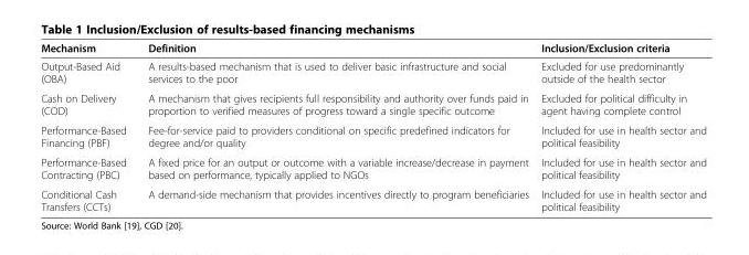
<table><thead><tr><td>Mechanism</td><td>Definition</td><td>Inclusion/Exclusion criteria</td></tr></thead><tbody><tr><td>Output-Based Aid (OBA)</td><td>A results-based mechanism that is used to deliver basic infrastructure and social services to the poor</td><td>Excluded for use predominantly outside of the health sector</td></tr><tr><td>Cash on Delivery (COD)</td><td>A mechanism that gives recipients full responsibility and authority over funds paid in proportion to verified measures of progress toward a single specific outcome</td><td>Excluded for political difficulty in agent having complete control</td></tr><tr><td>Performance-Based Financing (PBF)</td><td>Fee-for-service paid to providers conditional on specific predefined indicators for degree and/or quality</td><td>Included for use in health sector and political feasibility</td></tr><tr><td>Performance-Based Contracting (PBC)</td><td>A fixed price for an output or outcome with a variable increase/decrease in payment based on performance, typically applied to NGOs</td><td>Included for use in health sector and political feasibility</td></tr><tr><td>Conditional Cash Transfers (CCTs)</td><td>A demand-side mechanism that provides incentives directly to program beneficiaries</td><td>Included for use in health sector and political feasibility</td></tr></tbody></table>